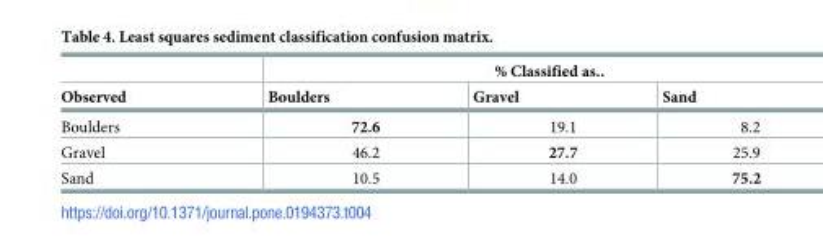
<table><thead><tr><td rowspan="2">Observed</td><td colspan="3">% Classified as‥</td></tr><tr><td>Boulders</td><td>Gravel</td><td>Sand</td></tr></thead><tbody><tr><td>Boulders</td><td>72.6</td><td>19.1</td><td>8.2</td></tr><tr><td>Gravel</td><td>46.2</td><td>27.7</td><td>25.9</td></tr><tr><td>Sand</td><td>10.5</td><td>14.0</td><td>75.2</td></tr></tbody></table>